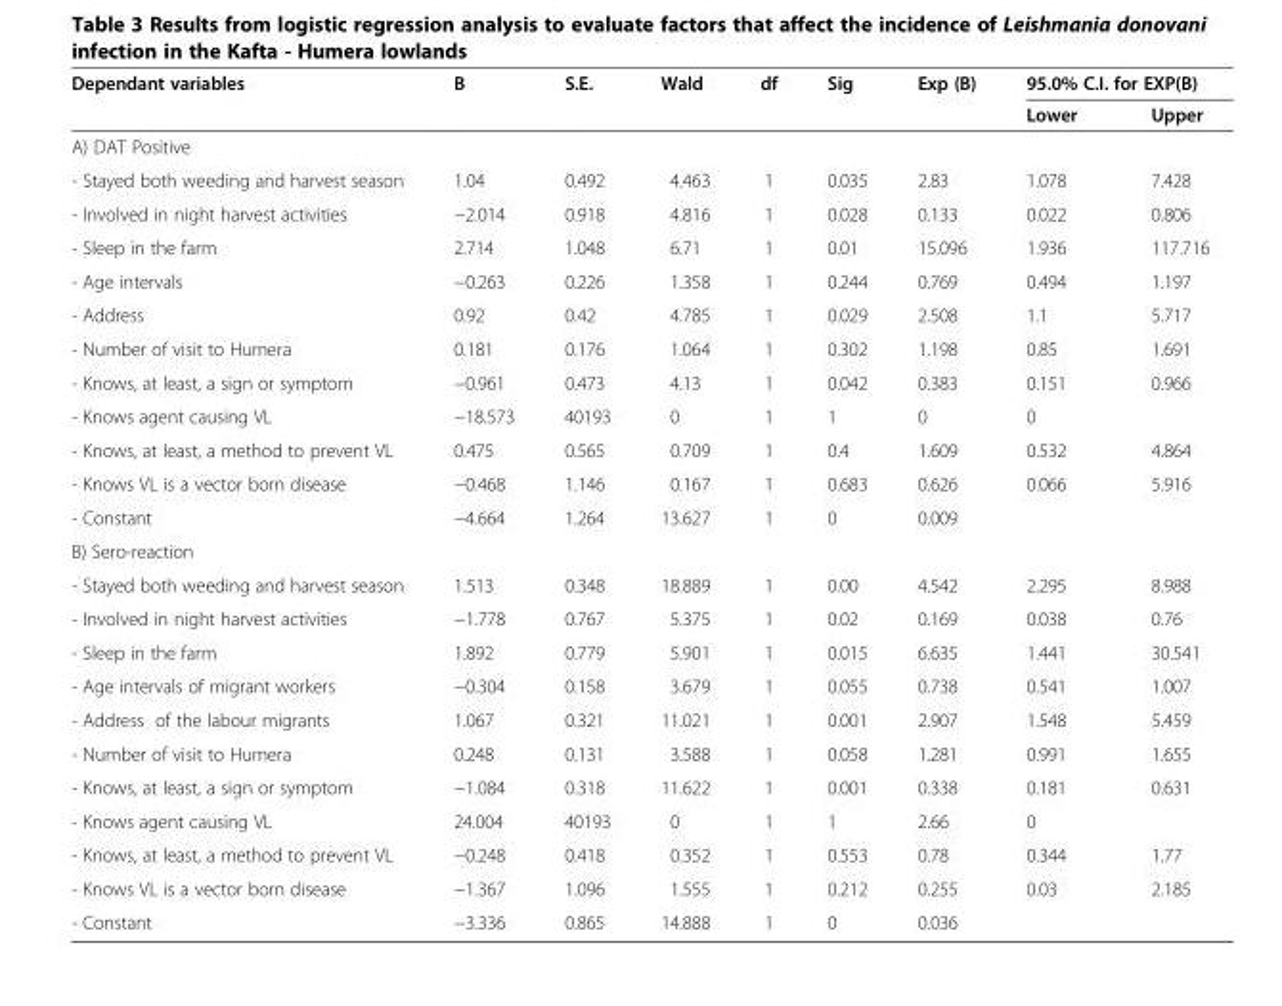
<table><thead><tr><td rowspan="2">Dependant variables</td><td rowspan="2">B</td><td rowspan="2">S.E.</td><td rowspan="2">Wald</td><td rowspan="2">df</td><td rowspan="2">Sig</td><td rowspan="2">Exp (B)</td><td colspan="2">95.0% C.I. for EXP(B)</td></tr><tr><td>Lower</td><td>Upper</td></tr></thead><tbody><tr><td colspan="9">A) DAT Positive</td></tr><tr><td>- Stayed both weeding and harvest season</td><td>1.04</td><td>0.492</td><td>4.463</td><td>1</td><td>0.035</td><td>2.83</td><td>1.078</td><td>7.428</td></tr><tr><td>- Involved in night harvest activities</td><td>−2.014</td><td>0.918</td><td>4.816</td><td>1</td><td>0.028</td><td>0.133</td><td>0.022</td><td>0.806</td></tr><tr><td>- Sleep in the farm</td><td>2.714</td><td>1.048</td><td>6.71</td><td>1</td><td>0.01</td><td>15.096</td><td>1.936</td><td>117.716</td></tr><tr><td>- Age intervals</td><td>−0.263</td><td>0.226</td><td>1.358</td><td>1</td><td>0.244</td><td>0.769</td><td>0.494</td><td>1.197</td></tr><tr><td>- Address</td><td>0.92</td><td>0.42</td><td>4.785</td><td>1</td><td>0.029</td><td>2.508</td><td>1.1</td><td>5.717</td></tr><tr><td>- Number of visit to Humera</td><td>0.181</td><td>0.176</td><td>1.064</td><td>1</td><td>0.302</td><td>1.198</td><td>0.85</td><td>1.691</td></tr><tr><td>- Knows, at least, a sign or symptom</td><td>−0.961</td><td>0.473</td><td>4.13</td><td>1</td><td>0.042</td><td>0.383</td><td>0.151</td><td>0.966</td></tr><tr><td>- Knows agent causing VL</td><td>−18.573</td><td>40193</td><td>0</td><td>1</td><td>1</td><td>0</td><td>0</td><td></td></tr><tr><td>- Knows, at least, a method to prevent VL</td><td>0.475</td><td>0.565</td><td>0.709</td><td>1</td><td>0.4</td><td>1.609</td><td>0.532</td><td>4.864</td></tr><tr><td>- Knows VL is a vector born disease</td><td>−0.468</td><td>1.146</td><td>0.167</td><td>1</td><td>0.683</td><td>0.626</td><td>0.066</td><td>5.916</td></tr><tr><td>- Constant</td><td>−4.664</td><td>1.264</td><td>13.627</td><td>1</td><td>0</td><td>0.009</td><td></td><td></td></tr><tr><td colspan="9">B) Sero-reaction</td></tr><tr><td>- Stayed both weeding and harvest season</td><td>1.513</td><td>0.348</td><td>18.889</td><td>1</td><td>0.00</td><td>4.542</td><td>2.295</td><td>8.988</td></tr><tr><td>- Involved in night harvest activities</td><td>−1.778</td><td>0.767</td><td>5.375</td><td>1</td><td>0.02</td><td>0.169</td><td>0.038</td><td>0.76</td></tr><tr><td>- Sleep in the farm</td><td>1.892</td><td>0.779</td><td>5.901</td><td>1</td><td>0.015</td><td>6.635</td><td>1.441</td><td>30.541</td></tr><tr><td>- Age intervals of migrant workers</td><td>−0.304</td><td>0.158</td><td>3.679</td><td>1</td><td>0.055</td><td>0.738</td><td>0.541</td><td>1.007</td></tr><tr><td>- Address of the labour migrants</td><td>1.067</td><td>0.321</td><td>11.021</td><td>1</td><td>0.001</td><td>2.907</td><td>1.548</td><td>5.459</td></tr><tr><td>- Number of visit to Humera</td><td>0.248</td><td>0.131</td><td>3.588</td><td>1</td><td>0.058</td><td>1.281</td><td>0.991</td><td>1.655</td></tr><tr><td>- Knows, at least, a sign or symptom</td><td>−1.084</td><td>0.318</td><td>11.622</td><td>1</td><td>0.001</td><td>0.338</td><td>0.181</td><td>0.631</td></tr><tr><td>- Knows agent causing VL</td><td>24.004</td><td>40193</td><td>0</td><td>1</td><td>1</td><td>2.66</td><td>0</td><td></td></tr><tr><td>- Knows, at least, a method to prevent VL</td><td>−0.248</td><td>0.418</td><td>0.352</td><td>1</td><td>0.553</td><td>0.78</td><td>0.344</td><td>1.77</td></tr><tr><td>- Knows VL is a vector born disease</td><td>−1.367</td><td>1.096</td><td>1.555</td><td>1</td><td>0.212</td><td>0.255</td><td>0.03</td><td>2.185</td></tr><tr><td>- Constant</td><td>−3.336</td><td>0.865</td><td>14.888</td><td>1</td><td>0</td><td>0.036</td><td></td><td></td></tr></tbody></table>